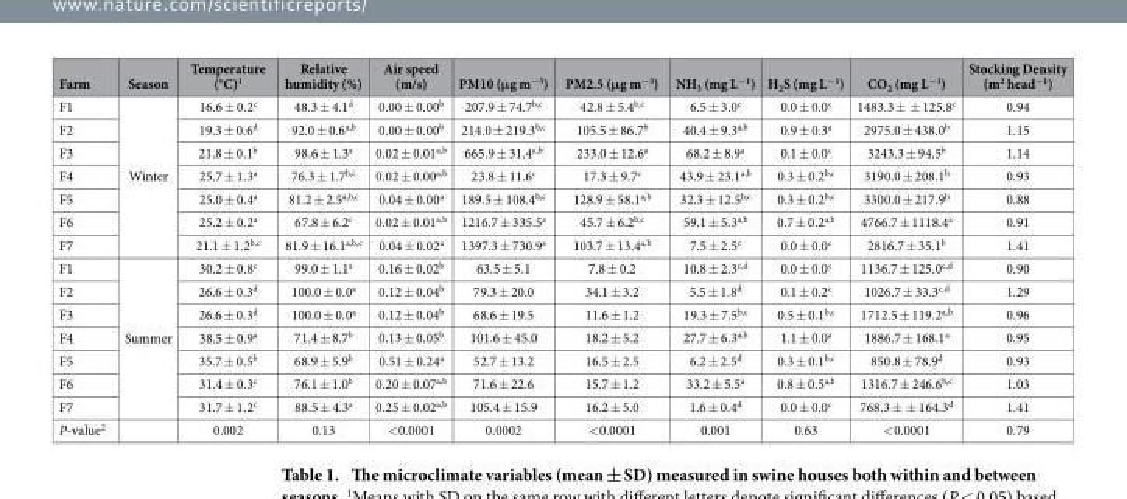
<table><thead><tr><td>Farm</td><td>Season</td><td>Temperature (°C)<sup>1</sup></td><td>Relative humidity (%)</td><td>Air speed (m/s)</td><td>PM10 (μg m<sup>−3</sup>)</td><td>PM2.5 (μg m<sup>−3</sup>)</td><td>NH<sub>3</sub> (mg L<sup>−1</sup>)</td><td>H<sub>2</sub>S (mg L<sup>−1</sup>)</td><td>CO<sub>2</sub> (mg L<sup>−1</sup>)</td><td>Stocking Density (m<sup>2</sup> head<sup>−1</sup>)</td></tr></thead><tbody><tr><td>F1</td><td rowspan="7">Winter</td><td>16.6 ± 0.2<sup>c</sup></td><td>48.3 ± 4.1<sup>d</sup></td><td>0.00 ± 0.00<sup>b</sup></td><td>207.9 ± 74.7<sup>b,c</sup></td><td>42.8 ± 5.4<sup>b,c</sup></td><td>6.5 ± 3.0<sup>c</sup></td><td>0.0 ± 0.0<sup>c</sup></td><td>1483.3 ± ± 125.8<sup>c</sup></td><td>0.94</td></tr><tr><td>F2</td><td>19.3 ± 0.6<sup>d</sup></td><td>92.0 ± 0.6<sup>a,b</sup></td><td>0.00 ± 0.00<sup>b</sup></td><td>214.0 ± 219.3<sup>b,c</sup></td><td>105.5 ± 86.7<sup>b</sup></td><td>40.4 ± 9.3<sup>a,b</sup></td><td>0.9 ± 0.3<sup>a</sup></td><td>2975.0 ± 438.0<sup>b</sup></td><td>1.15</td></tr><tr><td>F3</td><td>21.8 ± 0.1<sup>b</sup></td><td>98.6 ± 1.3<sup>a</sup></td><td>0.02 ± 0.01<sup>a,b</sup></td><td>665.9 ± 31.4<sup>a,b</sup></td><td>233.0 ± 12.6<sup>a</sup></td><td>68.2 ± 8.9<sup>a</sup></td><td>0.1 ± 0.0<sup>c</sup></td><td>3243.3 ± 94.5<sup>b</sup></td><td>1.14</td></tr><tr><td>F4</td><td>25.7 ± 1.3<sup>a</sup></td><td>76.3 ± 1.7<sup>b,c</sup></td><td>0.02 ± 0.00<sup>a,b</sup></td><td>23.8 ± 11.6<sup>c</sup></td><td>17.3 ± 9.7<sup>c</sup></td><td>43.9 ± 23.1<sup>a,b</sup></td><td>0.3 ± 0.2<sup>b,c</sup></td><td>3190.0 ± 208.1<sup>b</sup></td><td>0.93</td></tr><tr><td>F5</td><td>25.0 ± 0.4<sup>a</sup></td><td>81.2 ± 2.5<sup>a,b,c</sup></td><td>0.04 ± 0.00<sup>a</sup></td><td>189.5 ± 108.4<sup>b,c</sup></td><td>128.9 ± 58.1<sup>a,b</sup></td><td>32.3 ± 12.5<sup>b,c</sup></td><td>0.3 ± 0.2<sup>b,c</sup></td><td>3300.0 ± 217.9<sup>b</sup></td><td>0.88</td></tr><tr><td>F6</td><td>25.2 ± 0.2<sup>a</sup></td><td>67.8 ± 6.2<sup>c</sup></td><td>0.02 ± 0.01<sup>a,b</sup></td><td>1216.7 ± 335.5<sup>a</sup></td><td>45.7 ± 6.2<sup>b,c</sup></td><td>59.1 ± 5.3<sup>a,b</sup></td><td>0.7 ± 0.2<sup>a,b</sup></td><td>4766.7 ± 1118.4<sup>a</sup></td><td>0.91</td></tr><tr><td>F7</td><td>21.1 ± 1.2<sup>b,c</sup></td><td>81.9 ± 16.1<sup>a,b,c</sup></td><td>0.04 ± 0.02<sup>a</sup></td><td>1397.3 ± 730.9<sup>a</sup></td><td>103.7 ± 13.4<sup>a,b</sup></td><td>7.5 ± 2.5<sup>c</sup></td><td>0.0 ± 0.0<sup>c</sup></td><td>2816.7 ± 35.1<sup>b</sup></td><td>1.41</td></tr><tr><td>F1</td><td rowspan="7">Summer</td><td>30.2 ± 0.8<sup>c</sup></td><td>99.0 ± 1.1<sup>a</sup></td><td>0.16 ± 0.02<sup>b</sup></td><td>63.5 ± 5.1</td><td>7.8 ± 0.2</td><td>10.8 ± 2.3<sup>c,d</sup></td><td>0.0 ± 0.0<sup>c</sup></td><td>1136.7 ± 125.0<sup>c,d</sup></td><td>0.90</td></tr><tr><td>F2</td><td>26.6 ± 0.3<sup>d</sup></td><td>100.0 ± 0.0<sup>a</sup></td><td>0.12 ± 0.04<sup>b</sup></td><td>79.3 ± 20.0</td><td>34.1 ± 3.2</td><td>5.5 ± 1.8<sup>d</sup></td><td>0.1 ± 0.2<sup>c</sup></td><td>1026.7 ± 33.3<sup>c,d</sup></td><td>1.29</td></tr><tr><td>F3</td><td>26.6 ± 0.3<sup>d</sup></td><td>100.0 ± 0.0<sup>a</sup></td><td>0.12 ± 0.04<sup>b</sup></td><td>68.6 ± 19.5</td><td>11.6 ± 1.2</td><td>19.3 ± 7.5<sup>b,c</sup></td><td>0.5 ± 0.1<sup>b,c</sup></td><td>1712.5 ± 119.2<sup>a,b</sup></td><td>0.96</td></tr><tr><td>F4</td><td>38.5 ± 0.9<sup>a</sup></td><td>71.4 ± 8.7<sup>b</sup></td><td>0.13 ± 0.05<sup>b</sup></td><td>101.6 ± 45.0</td><td>18.2 ± 5.2</td><td>27.7 ± 6.3<sup>a,b</sup></td><td>1.1 ± 0.0<sup>a</sup></td><td>1886.7 ± 168.1<sup>a</sup></td><td>0.95</td></tr><tr><td>F5</td><td>35.7 ± 0.5<sup>b</sup></td><td>68.9 ± 5.9<sup>b</sup></td><td>0.51 ± 0.24<sup>a</sup></td><td>52.7 ± 13.2</td><td>16.5 ± 2.5</td><td>6.2 ± 2.5<sup>d</sup></td><td>0.3 ± 0.1<sup>b,c</sup></td><td>850.8 ± 78.9<sup>d</sup></td><td>0.93</td></tr><tr><td>F6</td><td>31.4 ± 0.3<sup>c</sup></td><td>76.1 ± 1.0<sup>b</sup></td><td>0.20 ± 0.07<sup>a,b</sup></td><td>71.6 ± 22.6</td><td>15.7 ± 1.2</td><td>33.2 ± 5.5<sup>a</sup></td><td>0.8 ± 0.5<sup>a,b</sup></td><td>1316.7 ± 246.6<sup>b,c</sup></td><td>1.03</td></tr><tr><td>F7</td><td>31.7 ± 1.2<sup>c</sup></td><td>88.5 ± 4.3<sup>a</sup></td><td>0.25 ± 0.02<sup>a,b</sup></td><td>105.4 ± 15.9</td><td>16.2 ± 5.0</td><td>1.6 ± 0.4<sup>d</sup></td><td>0.0 ± 0.0<sup>c</sup></td><td>768.3 ± ± 164.3<sup>d</sup></td><td>1.41</td></tr><tr><td>P-value<sup>2</sup></td><td></td><td>0.002</td><td>0.13</td><td>&lt; 0.0001</td><td>0.0002</td><td>&lt; 0.0001</td><td>0.001</td><td>0.63</td><td>&lt; 0.0001</td><td>0.79</td></tr></tbody></table>